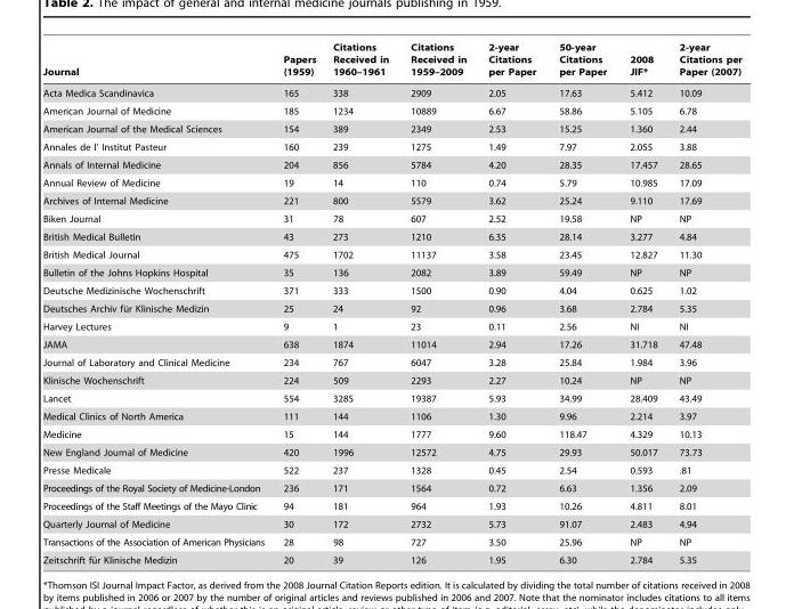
<table><thead><tr><td>Journal</td><td>Papers (1959)</td><td>Citations Received in 1960–1961</td><td>Citations Received in 1959–2009</td><td>2-year Citations per Paper</td><td>50-year Citations per Paper</td><td>2008 JIF*</td><td>2-year Citations per Paper (2007)</td></tr></thead><tbody><tr><td>Acta Medica Scandinavica</td><td>165</td><td>338</td><td>2909</td><td>2.05</td><td>17.63</td><td>5.412</td><td>10.09</td></tr><tr><td>American Journal of Medicine</td><td>185</td><td>1234</td><td>10889</td><td>6.67</td><td>58.86</td><td>5.105</td><td>6.78</td></tr><tr><td>American Journal of the Medical Sciences</td><td>154</td><td>389</td><td>2349</td><td>2.53</td><td>15.25</td><td>1.360</td><td>2.44</td></tr><tr><td>Annales de l’ Institut Pasteur</td><td>160</td><td>239</td><td>1275</td><td>1.49</td><td>7.97</td><td>2.055</td><td>3.88</td></tr><tr><td>Annals of Internal Medicine</td><td>204</td><td>856</td><td>5784</td><td>4.20</td><td>28.35</td><td>17.457</td><td>28.65</td></tr><tr><td>Annual Review of Medicine</td><td>19</td><td>14</td><td>110</td><td>0.74</td><td>5.79</td><td>10.985</td><td>17.09</td></tr><tr><td>Archives of Internal Medicine</td><td>221</td><td>800</td><td>5579</td><td>3.62</td><td>25.24</td><td>9.110</td><td>17.69</td></tr><tr><td>Biken Journal</td><td>31</td><td>78</td><td>607</td><td>2.52</td><td>19.58</td><td>NP</td><td>NP</td></tr><tr><td>British Medical Bulletin</td><td>43</td><td>273</td><td>1210</td><td>6.35</td><td>28.14</td><td>3.277</td><td>4.84</td></tr><tr><td>British Medical Journal</td><td>475</td><td>1702</td><td>11137</td><td>3.58</td><td>23.45</td><td>12.827</td><td>11.30</td></tr><tr><td>Bulletin of the Johns Hopkins Hospital</td><td>35</td><td>136</td><td>2082</td><td>3.89</td><td>59.49</td><td>NP</td><td>NP</td></tr><tr><td>Deutsche Medizinische Wochenschrift</td><td>371</td><td>333</td><td>1500</td><td>0.90</td><td>4.04</td><td>0.625</td><td>1.02</td></tr><tr><td>Deutsches Archiv fu¨r Klinische Medizin</td><td>25</td><td>24</td><td>92</td><td>0.96</td><td>3.68</td><td>2.784</td><td>5.35</td></tr><tr><td>Harvey Lectures</td><td>9</td><td>1</td><td>23</td><td>0.11</td><td>2.56</td><td>NI</td><td>NI</td></tr><tr><td>JAMA</td><td>638</td><td>1874</td><td>11014</td><td>2.94</td><td>17.26</td><td>31.718</td><td>47.48</td></tr><tr><td>Journal of Laboratory and Clinical Medicine</td><td>234</td><td>767</td><td>6047</td><td>3.28</td><td>25.84</td><td>1.984</td><td>3.96</td></tr><tr><td>Klinische Wochenschrift</td><td>224</td><td>509</td><td>2293</td><td>2.27</td><td>10.24</td><td>NP</td><td>NP</td></tr><tr><td>Lancet</td><td>554</td><td>3285</td><td>19387</td><td>5.93</td><td>34.99</td><td>28.409</td><td>43.49</td></tr><tr><td>Medical Clinics of North America</td><td>111</td><td>144</td><td>1106</td><td>1.30</td><td>9.96</td><td>2.214</td><td>3.97</td></tr><tr><td>Medicine</td><td>15</td><td>144</td><td>1777</td><td>9.60</td><td>118.47</td><td>4.329</td><td>10.13</td></tr><tr><td>New England Journal of Medicine</td><td>420</td><td>1996</td><td>12572</td><td>4.75</td><td>29.93</td><td>50.017</td><td>73.73</td></tr><tr><td>Presse Medicale</td><td>522</td><td>237</td><td>1328</td><td>0.45</td><td>2.54</td><td>0.593</td><td>.81</td></tr><tr><td>Proceedings of the Royal Society of Medicine-London</td><td>236</td><td>171</td><td>1564</td><td>0.72</td><td>6.63</td><td>1.356</td><td>2.09</td></tr><tr><td>Proceedings of the Staff Meetings of the Mayo Clinic</td><td>94</td><td>181</td><td>964</td><td>1.93</td><td>10.26</td><td>4.811</td><td>8.01</td></tr><tr><td>Quarterly Journal of Medicine</td><td>30</td><td>172</td><td>2732</td><td>5.73</td><td>91.07</td><td>2.483</td><td>4.94</td></tr><tr><td>Transactions of the Association of American Physicians</td><td>28</td><td>98</td><td>727</td><td>3.50</td><td>25.96</td><td>NP</td><td>NP</td></tr><tr><td>Zeitschrift fu¨r Klinische Medizin</td><td>20</td><td>39</td><td>126</td><td>1.95</td><td>6.30</td><td>2.784</td><td>5.35</td></tr></tbody></table>